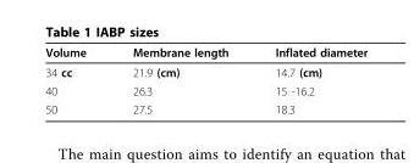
<table><thead><tr><td>Volume</td><td>Membrane length</td><td>Inflated diameter</td></tr></thead><tbody><tr><td>34 cc</td><td>21.9 (cm)</td><td>14.7 (cm)</td></tr><tr><td>40</td><td>26.3</td><td>15 -16.2</td></tr><tr><td>50</td><td>27.5</td><td>18.3</td></tr></tbody></table>